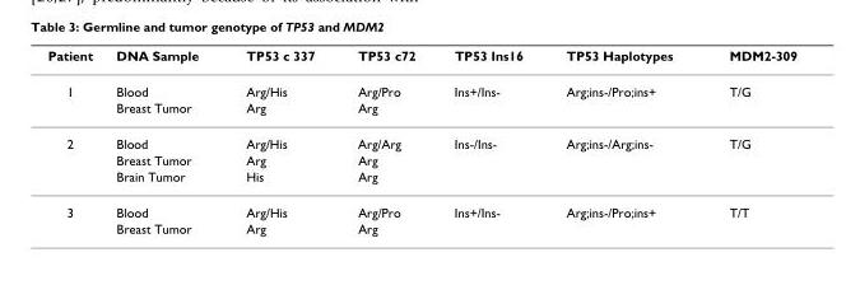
<table><thead><tr><td>Patient</td><td>DNA Sample</td><td>TP53 c 337</td><td>TP53 c72</td><td>TP53 Ins16</td><td>TP53 Haplotypes</td><td>MDM2-309</td></tr></thead><tbody><tr><td rowspan="2">1</td><td>Blood</td><td>Arg/His</td><td>Arg/Pro</td><td>Ins+/Ins-</td><td>Arg;ins-/Pro;ins+</td><td>T/G</td></tr><tr><td>Breast Tumor</td><td>Arg</td><td>Arg</td><td></td><td></td><td></td></tr><tr><td rowspan="3">2</td><td>Blood</td><td>Arg/His</td><td>Arg/Arg</td><td>Ins-/Ins-</td><td>Arg;ins-/Arg;ins-</td><td>T/G</td></tr><tr><td>Breast Tumor</td><td>Arg</td><td>Arg</td><td></td><td></td><td></td></tr><tr><td>Brain Tumor</td><td>His</td><td>Arg</td><td></td><td></td><td></td></tr><tr><td rowspan="2">3</td><td>Blood</td><td>Arg/His</td><td>Arg/Pro</td><td>Ins+/Ins-</td><td>Arg;ins-/Pro;ins+</td><td>T/T</td></tr><tr><td>Breast Tumor</td><td>Arg</td><td>Arg</td><td></td><td></td><td></td></tr></tbody></table>